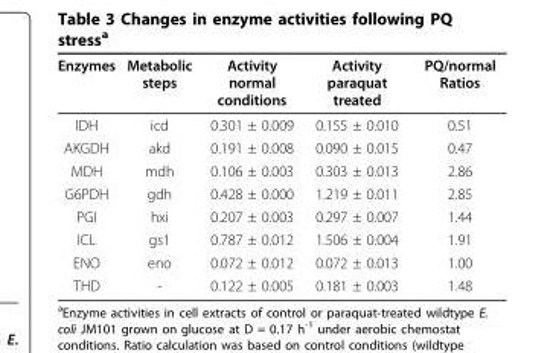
<table><thead><tr><td>Enzymes</td><td>Metabolic steps</td><td>Activity normal conditions</td><td>Activity paraquat treated</td><td>PQ/normal Ratios</td></tr></thead><tbody><tr><td>IDH</td><td>icd</td><td>0.301 ± 0.009</td><td>0.155 ± 0.010</td><td>0.51</td></tr><tr><td>AKGDH</td><td>akd</td><td>0.191 ± 0.008</td><td>0.090 ± 0.015</td><td>0.47</td></tr><tr><td>MDH</td><td>mdh</td><td>0.106 ± 0.003</td><td>0.303 ± 0.013</td><td>2.86</td></tr><tr><td>G6PDH</td><td>gdh</td><td>0.428 ± 0.000</td><td>1.219 ± 0.011</td><td>2.85</td></tr><tr><td>PGI</td><td>hxi</td><td>0.207 ± 0.003</td><td>0.297 ± 0.007</td><td>1.44</td></tr><tr><td>ICL</td><td>gs1</td><td>0.787 ± 0.012</td><td>1.506 ± 0.004</td><td>1.91</td></tr><tr><td>ENO</td><td>eno</td><td>0.072 ± 0.012</td><td>0.072 ± 0.013</td><td>1.00</td></tr><tr><td>THD</td><td>-</td><td>0.122 ± 0.005</td><td>0.181 ± 0.003</td><td>1.48</td></tr></tbody></table>